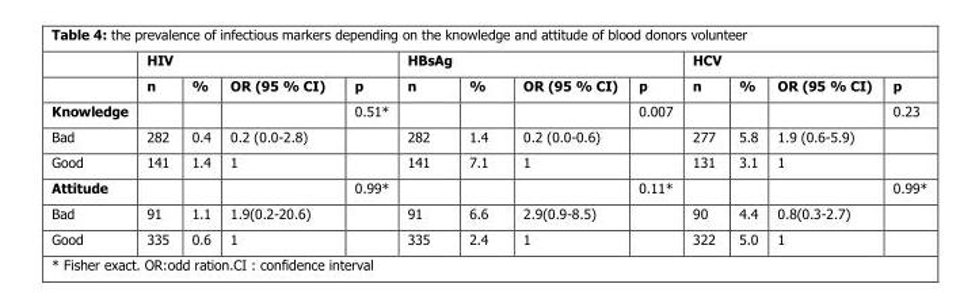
<table><thead><tr><td rowspan="2"></td><td colspan="4">HIV</td><td colspan="4">HBsAg</td><td colspan="4">HCV</td></tr><tr><td>n</td><td>%</td><td>OR (95 % CI)</td><td>p</td><td>n</td><td>%</td><td>OR (95 % CI)</td><td>p</td><td>n</td><td>%</td><td>OR (95 % CI)</td><td>p</td></tr></thead><tbody><tr><td>Knowledge</td><td></td><td></td><td></td><td>0.51*</td><td></td><td></td><td></td><td>0.007</td><td></td><td></td><td></td><td>0.23</td></tr><tr><td>Bad</td><td>282</td><td>0.4</td><td>0.2 (0.0-2.8)</td><td></td><td>282</td><td>1.4</td><td>0.2 (0.0-0.6)</td><td></td><td>277</td><td>5.8</td><td>1.9 (0.6-5.9)</td><td></td></tr><tr><td>Good</td><td>141</td><td>1.4</td><td>1</td><td></td><td>141</td><td>7.1</td><td>1</td><td></td><td>131</td><td>3.1</td><td>1</td><td></td></tr><tr><td>Attitude</td><td></td><td></td><td></td><td>0.99*</td><td></td><td></td><td></td><td>0.11*</td><td></td><td></td><td></td><td>0.99*</td></tr><tr><td>Bad</td><td>91</td><td>1.1</td><td>1.9(0.2-20.6)</td><td></td><td>91</td><td>6.6</td><td>2.9(0.9-8.5)</td><td></td><td>90</td><td>4.4</td><td>0.8(0.3-2.7)</td><td></td></tr><tr><td>Good</td><td>335</td><td>0.6</td><td>1</td><td></td><td>335</td><td>2.4</td><td>1</td><td></td><td>322</td><td>5.0</td><td>1</td><td></td></tr></tbody></table>